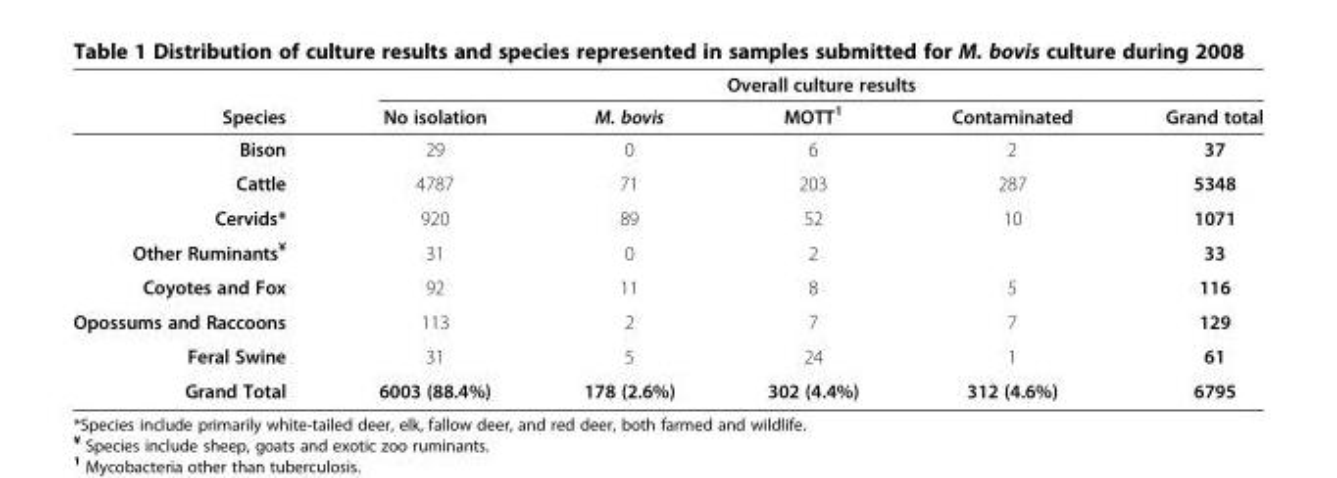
<table><thead><tr><td rowspan="2">Species</td><td colspan="5">Overall culture results</td></tr><tr><td>No isolation</td><td>M. bovis</td><td>MOTT<sup>1</sup></td><td>Contaminated</td><td>Grand total</td></tr></thead><tbody><tr><td>Bison</td><td>29</td><td>0</td><td>6</td><td>2</td><td>37</td></tr><tr><td>Cattle</td><td>4787</td><td>71</td><td>203</td><td>287</td><td>5348</td></tr><tr><td>Cervids*</td><td>920</td><td>89</td><td>52</td><td>10</td><td>1071</td></tr><tr><td>Other Ruminants<sup>¥</sup></td><td>31</td><td>0</td><td>2</td><td></td><td>33</td></tr><tr><td>Coyotes and Fox</td><td>92</td><td>11</td><td>8</td><td>5</td><td>116</td></tr><tr><td>Opossums and Raccoons</td><td>113</td><td>2</td><td>7</td><td>7</td><td>129</td></tr><tr><td>Feral Swine</td><td>31</td><td>5</td><td>24</td><td>1</td><td>61</td></tr><tr><td>Grand Total</td><td>6003 (88.4%)</td><td>178 (2.6%)</td><td>302 (4.4%)</td><td>312 (4.6%)</td><td>6795</td></tr></tbody></table>